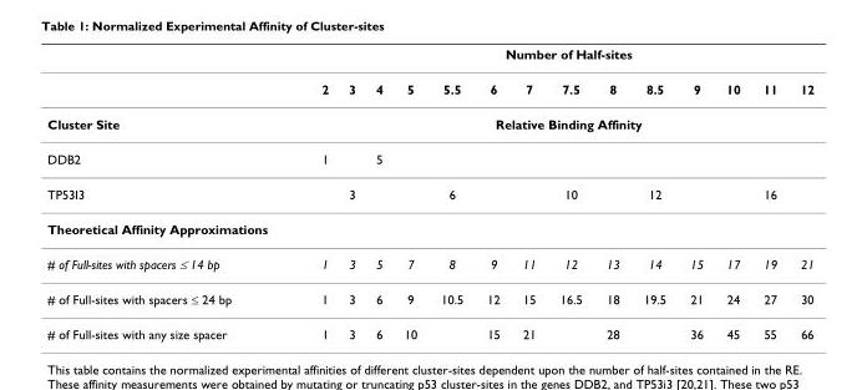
<table><thead><tr><td rowspan="2"></td><td colspan="14">Number of Half-sites</td></tr><tr><td>2</td><td>3</td><td>4</td><td>5</td><td>5.5</td><td>6</td><td>7</td><td>7.5</td><td>8</td><td>8.5</td><td>9</td><td>10</td><td>11</td><td>12</td></tr></thead><tbody><tr><td>Cluster Site</td><td colspan="14">Relative Binding Affinity</td></tr><tr><td>DDB2</td><td>1</td><td></td><td>5</td><td></td><td></td><td></td><td></td><td></td><td></td><td></td><td></td><td></td><td></td><td></td></tr><tr><td>TP53I3</td><td></td><td>3</td><td></td><td></td><td>6</td><td></td><td></td><td>10</td><td></td><td>12</td><td></td><td></td><td>16</td><td></td></tr><tr><td colspan="15">Theoretical Affinity Approximations</td></tr><tr><td># of Full-sites with spacers ≤ 14 bp</td><td>1</td><td>3</td><td>5</td><td>7</td><td>8</td><td>9</td><td>11</td><td>12</td><td>13</td><td>14</td><td>15</td><td>17</td><td>19</td><td>21</td></tr><tr><td># of Full-sites with spacers ≤ 24 bp</td><td>1</td><td>3</td><td>6</td><td>9</td><td>10.5</td><td>12</td><td>15</td><td>16.5</td><td>18</td><td>19.5</td><td>21</td><td>24</td><td>27</td><td>30</td></tr><tr><td># of Full-sites with any size spacer</td><td>1</td><td>3</td><td>6</td><td>10</td><td></td><td>15</td><td>21</td><td></td><td>28</td><td></td><td>36</td><td>45</td><td>55</td><td>66</td></tr></tbody></table>